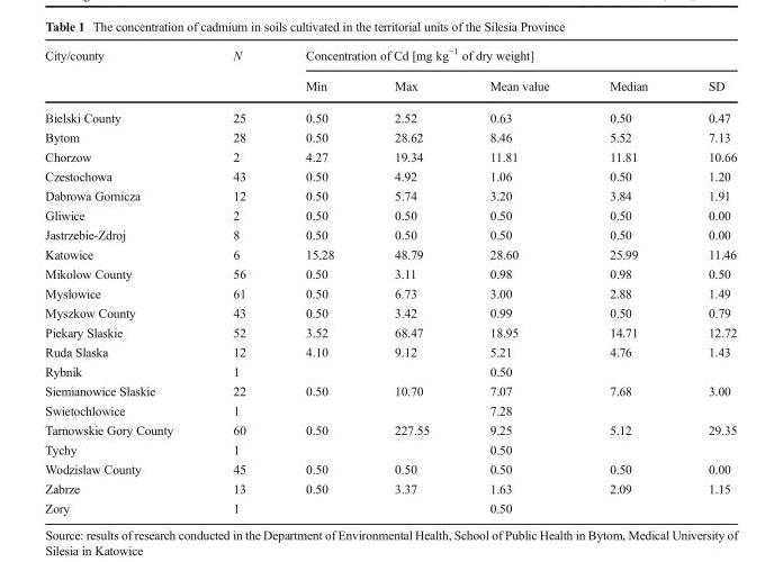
<table><thead><tr><td rowspan="2">City/county</td><td rowspan="2">N</td><td colspan="5">Concentration of Cd [mg kg<sup>−1</sup> of dry weight]</td></tr><tr><td>Min</td><td>Max</td><td>Mean value</td><td>Median</td><td>SD</td></tr></thead><tbody><tr><td>Bielski County</td><td>25</td><td>0.50</td><td>2.52</td><td>0.63</td><td>0.50</td><td>0.47</td></tr><tr><td>Bytom</td><td>28</td><td>0.50</td><td>28.62</td><td>8.46</td><td>5.52</td><td>7.13</td></tr><tr><td>Chorzow</td><td>2</td><td>4.27</td><td>19.34</td><td>11.81</td><td>11.81</td><td>10.66</td></tr><tr><td>Czestochowa</td><td>43</td><td>0.50</td><td>4.92</td><td>1.06</td><td>0.50</td><td>1.20</td></tr><tr><td>Dabrowa Gornicza</td><td>12</td><td>0.50</td><td>5.74</td><td>3.20</td><td>3.84</td><td>1.91</td></tr><tr><td>Gliwice</td><td>2</td><td>0.50</td><td>0.50</td><td>0.50</td><td>0.50</td><td>0.00</td></tr><tr><td>Jastrzebie-Zdroj</td><td>8</td><td>0.50</td><td>0.50</td><td>0.50</td><td>0.50</td><td>0.00</td></tr><tr><td>Katowice</td><td>6</td><td>15.28</td><td>48.79</td><td>28.60</td><td>25.99</td><td>11.46</td></tr><tr><td>Mikolow County</td><td>56</td><td>0.50</td><td>3.11</td><td>0.98</td><td>0.98</td><td>0.50</td></tr><tr><td>Myslowice</td><td>61</td><td>0.50</td><td>6.73</td><td>3.00</td><td>2.88</td><td>1.49</td></tr><tr><td>Myszkow County</td><td>43</td><td>0.50</td><td>3.42</td><td>0.99</td><td>0.50</td><td>0.79</td></tr><tr><td>Piekary Slaskie</td><td>52</td><td>3.52</td><td>68.47</td><td>18.95</td><td>14.71</td><td>12.72</td></tr><tr><td>Ruda Slaska</td><td>12</td><td>4.10</td><td>9.12</td><td>5.21</td><td>4.76</td><td>1.43</td></tr><tr><td>Rybnik</td><td>1</td><td></td><td></td><td>0.50</td><td></td><td></td></tr><tr><td>Siemianowice Slaskie</td><td>22</td><td>0.50</td><td>10.70</td><td>7.07</td><td>7.68</td><td>3.00</td></tr><tr><td>Swietochlowice</td><td>1</td><td></td><td></td><td>7.28</td><td></td><td></td></tr><tr><td>Tarnowskie Gory County</td><td>60</td><td>0.50</td><td>227.55</td><td>9.25</td><td>5.12</td><td>29.35</td></tr><tr><td>Tychy</td><td>1</td><td></td><td></td><td>0.50</td><td></td><td></td></tr><tr><td>Wodzislaw County</td><td>45</td><td>0.50</td><td>0.50</td><td>0.50</td><td>0.50</td><td>0.00</td></tr><tr><td>Zabrze</td><td>13</td><td>0.50</td><td>3.37</td><td>1.63</td><td>2.09</td><td>1.15</td></tr><tr><td>Zory</td><td>1</td><td></td><td></td><td>0.50</td><td></td><td></td></tr></tbody></table>